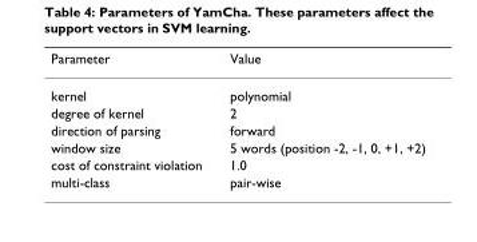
<table><thead><tr><td>Parameter</td><td>Value</td></tr></thead><tbody><tr><td>kernel</td><td>polynomial</td></tr><tr><td>degree of kernel</td><td>2</td></tr><tr><td>direction of parsing</td><td>forward</td></tr><tr><td>window size</td><td>5 words (position -2, -1, 0, +1, +2)</td></tr><tr><td>cost of constraint violation</td><td>1.0</td></tr><tr><td>multi-class</td><td>pair-wise</td></tr></tbody></table>